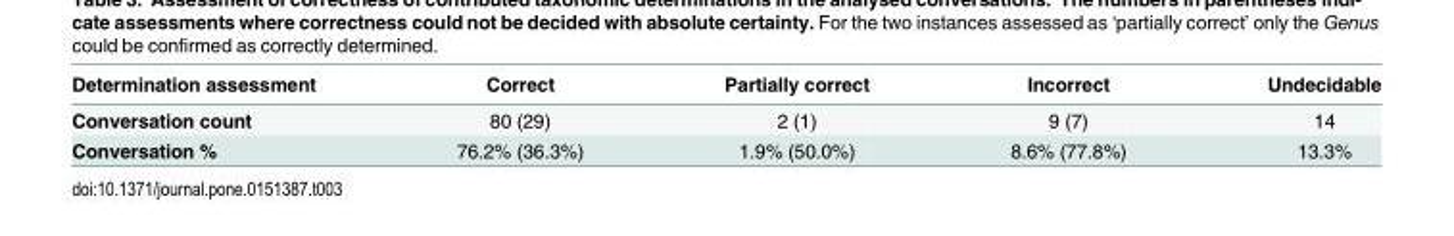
<table><thead><tr><td>Determination assessment</td><td>Correct</td><td>Partially correct</td><td>Incorrect</td><td>Undecidable</td></tr></thead><tbody><tr><td>Conversation count</td><td>80 (29)</td><td>2 (1)</td><td>9 (7)</td><td>14</td></tr><tr><td>Conversation %</td><td>76.2% (36.3%)</td><td>1.9% (50.0%)</td><td>8.6% (77.8%)</td><td>13.3%</td></tr></tbody></table>